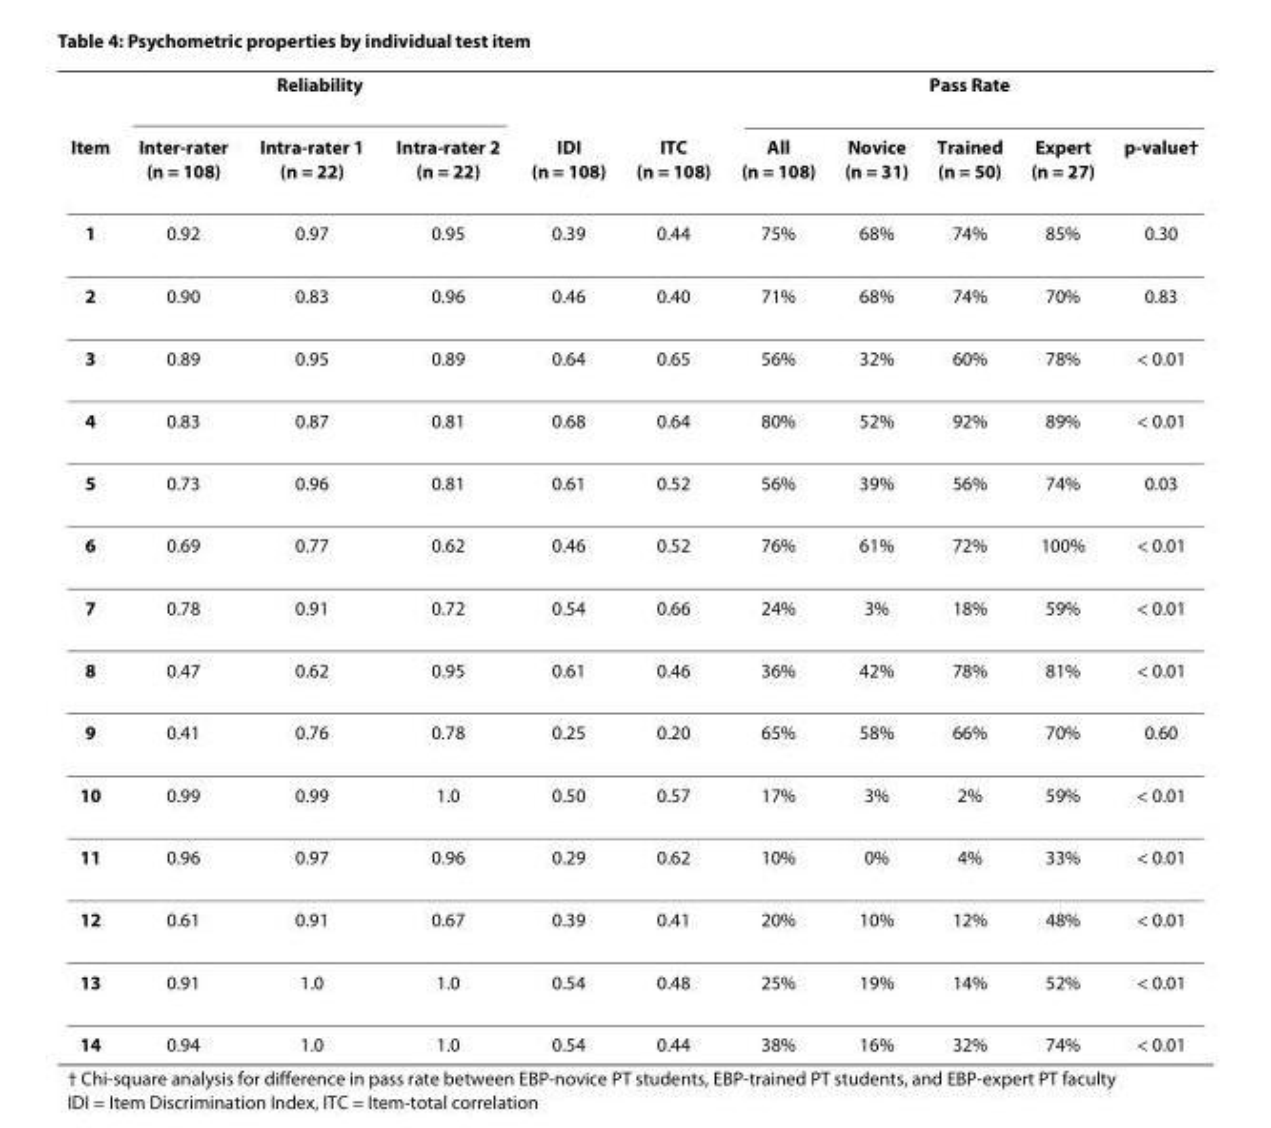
<table><thead><tr><td rowspan="2">Item</td><td colspan="3">Reliability</td><td rowspan="2">IDI (n = 108)</td><td rowspan="2">ITC (n = 108)</td><td colspan="5">Pass Rate</td></tr><tr><td>Inter-rater (n = 108)</td><td>Intra-rater 1 (n = 22)</td><td>Intra-rater 2 (n = 22)</td><td>All (n = 108)</td><td>Novice (n = 31)</td><td>Trained (n = 50)</td><td>Expert (n = 27)</td><td>p-value†</td></tr></thead><tbody><tr><td>1</td><td>0.92</td><td>0.97</td><td>0.95</td><td>0.39</td><td>0.44</td><td>75%</td><td>68%</td><td>74%</td><td>85%</td><td>0.30</td></tr><tr><td>2</td><td>0.90</td><td>0.83</td><td>0.96</td><td>0.46</td><td>0.40</td><td>71%</td><td>68%</td><td>74%</td><td>70%</td><td>0.83</td></tr><tr><td>3</td><td>0.89</td><td>0.95</td><td>0.89</td><td>0.64</td><td>0.65</td><td>56%</td><td>32%</td><td>60%</td><td>78%</td><td>&lt; 0.01</td></tr><tr><td>4</td><td>0.83</td><td>0.87</td><td>0.81</td><td>0.68</td><td>0.64</td><td>80%</td><td>52%</td><td>92%</td><td>89%</td><td>&lt; 0.01</td></tr><tr><td>5</td><td>0.73</td><td>0.96</td><td>0.81</td><td>0.61</td><td>0.52</td><td>56%</td><td>39%</td><td>56%</td><td>74%</td><td>0.03</td></tr><tr><td>6</td><td>0.69</td><td>0.77</td><td>0.62</td><td>0.46</td><td>0.52</td><td>76%</td><td>61%</td><td>72%</td><td>100%</td><td>&lt; 0.01</td></tr><tr><td>7</td><td>0.78</td><td>0.91</td><td>0.72</td><td>0.54</td><td>0.66</td><td>24%</td><td>3%</td><td>18%</td><td>59%</td><td>&lt; 0.01</td></tr><tr><td>8</td><td>0.47</td><td>0.62</td><td>0.95</td><td>0.61</td><td>0.46</td><td>36%</td><td>42%</td><td>78%</td><td>81%</td><td>&lt; 0.01</td></tr><tr><td>9</td><td>0.41</td><td>0.76</td><td>0.78</td><td>0.25</td><td>0.20</td><td>65%</td><td>58%</td><td>66%</td><td>70%</td><td>0.60</td></tr><tr><td>10</td><td>0.99</td><td>0.99</td><td>1.0</td><td>0.50</td><td>0.57</td><td>17%</td><td>3%</td><td>2%</td><td>59%</td><td>&lt; 0.01</td></tr><tr><td>11</td><td>0.96</td><td>0.97</td><td>0.96</td><td>0.29</td><td>0.62</td><td>10%</td><td>0%</td><td>4%</td><td>33%</td><td>&lt; 0.01</td></tr><tr><td>12</td><td>0.61</td><td>0.91</td><td>0.67</td><td>0.39</td><td>0.41</td><td>20%</td><td>10%</td><td>12%</td><td>48%</td><td>&lt; 0.01</td></tr><tr><td>13</td><td>0.91</td><td>1.0</td><td>1.0</td><td>0.54</td><td>0.48</td><td>25%</td><td>19%</td><td>14%</td><td>52%</td><td>&lt; 0.01</td></tr><tr><td>14</td><td>0.94</td><td>1.0</td><td>1.0</td><td>0.54</td><td>0.44</td><td>38%</td><td>16%</td><td>32%</td><td>74%</td><td>&lt; 0.01</td></tr></tbody></table>